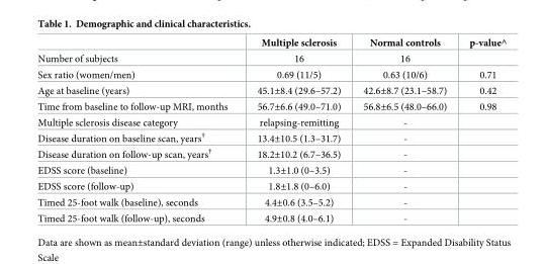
<table><thead><tr><td></td><td>Multiple sclerosis</td><td>Normal controls</td><td>p-value^</td></tr></thead><tbody><tr><td>Number of subjects</td><td>16</td><td>16</td><td></td></tr><tr><td>Sex ratio (women/men)</td><td>0.69 (11/5)</td><td>0.63 (10/6)</td><td>0.71</td></tr><tr><td>Age at baseline (years)</td><td>45.1±8.4 (29.6–57.2)</td><td>42.6±8.7 (23.1–58.7)</td><td>0.42</td></tr><tr><td>Time from baseline to follow-up MRI, months</td><td>56.7±6.6 (49.0–71.0)</td><td>56.8±6.5 (48.0–66.0)</td><td>0.98</td></tr><tr><td>Multiple sclerosis disease category</td><td>relapsing-remitting</td><td>-</td><td></td></tr><tr><td>Disease duration on baseline scan, years<sup>†</sup></td><td>13.4±10.5 (1.3–31.7)</td><td>-</td><td></td></tr><tr><td>Disease duration on follow-up scan, years<sup>†</sup></td><td>18.2±10.2 (6.7–36.5)</td><td>-</td><td></td></tr><tr><td>EDSS score (baseline)</td><td>1.3±1.0 (0–3.5)</td><td>-</td><td></td></tr><tr><td>EDSS score (follow-up)</td><td>1.8±1.8 (0–6.0)</td><td>-</td><td></td></tr><tr><td>Timed 25-foot walk (baseline), seconds</td><td>4.4±0.6 (3.5–5.2)</td><td>-</td><td></td></tr><tr><td>Timed 25-foot walk (follow-up), seconds</td><td>4.9±0.8 (4.0–6.1)</td><td>-</td><td></td></tr></tbody></table>